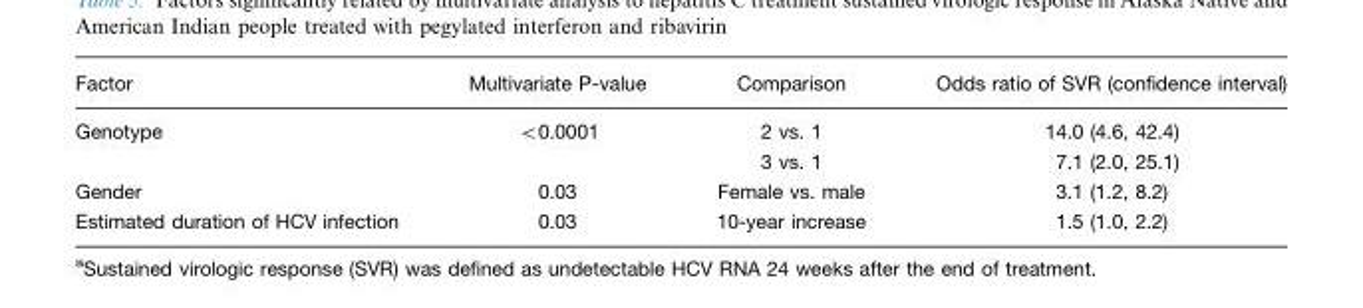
<table><thead><tr><td>Factor</td><td>Multivariate P-value</td><td>Comparison</td><td>Odds ratio of SVR (confidence interval)</td></tr></thead><tbody><tr><td rowspan="2">Genotype</td><td>&lt;0.0001</td><td>2 vs. 1</td><td>14.0 (4.6, 42.4)</td></tr><tr><td></td><td>3 vs. 1</td><td>7.1 (2.0, 25.1)</td></tr><tr><td>Gender</td><td>0.03</td><td>Female vs. male</td><td>3.1 (1.2, 8.2)</td></tr><tr><td>Estimated duration of HCV infection</td><td>0.03</td><td>10-year increase</td><td>1.5 (1.0, 2.2)</td></tr></tbody></table>